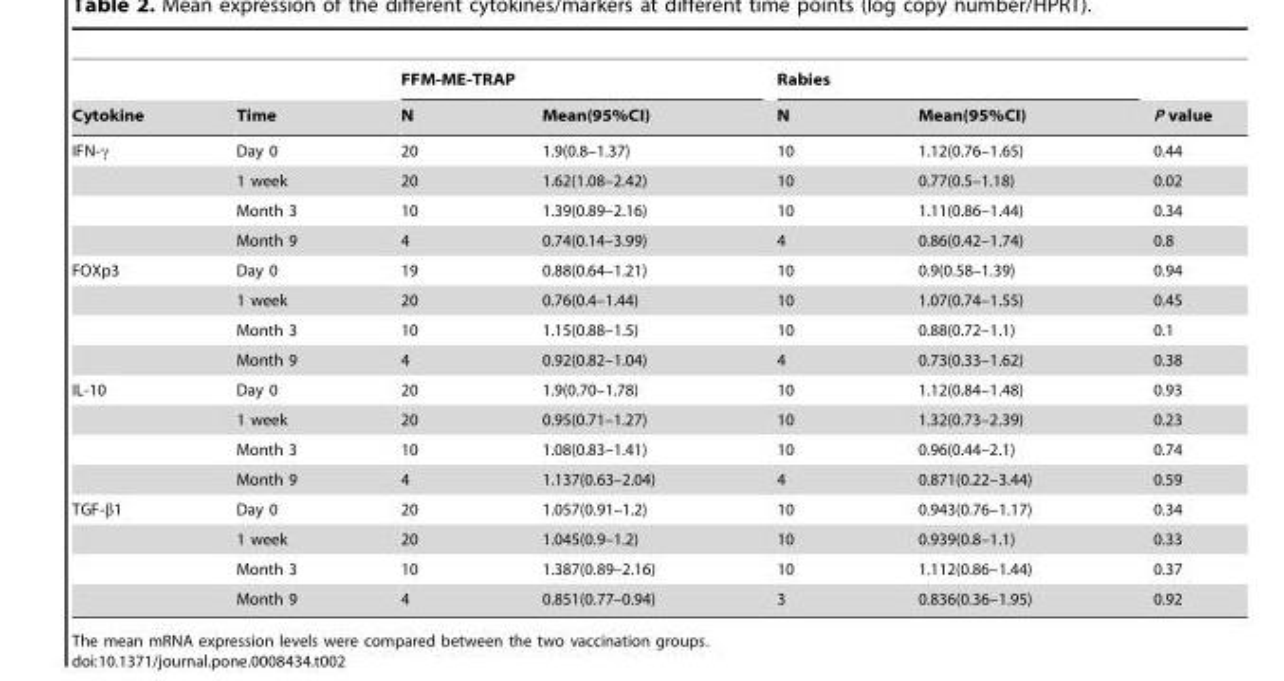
<table><thead><tr><td rowspan="2">Cytokine</td><td rowspan="2">Time</td><td colspan="2">FFM-ME-TRAP</td><td colspan="2">Rabies</td><td rowspan="2">P value</td></tr><tr><td>N</td><td>Mean(95%CI)</td><td>N</td><td>Mean(95%CI)</td></tr></thead><tbody><tr><td rowspan="4">IFN-γ</td><td>Day 0</td><td>20</td><td>1.9(0.8–1.37)</td><td>10</td><td>1.12(0.76–1.65)</td><td>0.44</td></tr><tr><td>1 week</td><td>20</td><td>1.62(1.08–2.42)</td><td>10</td><td>0.77(0.5–1.18)</td><td>0.02</td></tr><tr><td>Month 3</td><td>10</td><td>1.39(0.89–2.16)</td><td>10</td><td>1.11(0.86–1.44)</td><td>0.34</td></tr><tr><td>Month 9</td><td>4</td><td>0.74(0.14–3.99)</td><td>4</td><td>0.86(0.42–1.74)</td><td>0.8</td></tr><tr><td rowspan="4">FOXp3</td><td>Day 0</td><td>19</td><td>0.88(0.64–1.21)</td><td>10</td><td>0.9(0.58–1.39)</td><td>0.94</td></tr><tr><td>1 week</td><td>20</td><td>0.76(0.4–1.44)</td><td>10</td><td>1.07(0.74–1.55)</td><td>0.45</td></tr><tr><td>Month 3</td><td>10</td><td>1.15(0.88–1.5)</td><td>10</td><td>0.88(0.72–1.1)</td><td>0.1</td></tr><tr><td>Month 9</td><td>4</td><td>0.92(0.82–1.04)</td><td>4</td><td>0.73(0.33–1.62)</td><td>0.38</td></tr><tr><td rowspan="4">IL-10</td><td>Day 0</td><td>20</td><td>1.9(0.70–1.78)</td><td>10</td><td>1.12(0.84–1.48)</td><td>0.93</td></tr><tr><td>1 week</td><td>20</td><td>0.95(0.71–1.27)</td><td>10</td><td>1.32(0.73–2.39)</td><td>0.23</td></tr><tr><td>Month 3</td><td>10</td><td>1.08(0.83–1.41)</td><td>10</td><td>0.96(0.44–2.1)</td><td>0.74</td></tr><tr><td>Month 9</td><td>4</td><td>1.137(0.63–2.04)</td><td>4</td><td>0.871(0.22–3.44)</td><td>0.59</td></tr><tr><td rowspan="4">TGF-β1</td><td>Day 0</td><td>20</td><td>1.057(0.91–1.2)</td><td>10</td><td>0.943(0.76–1.17)</td><td>0.34</td></tr><tr><td>1 week</td><td>20</td><td>1.045(0.9–1.2)</td><td>10</td><td>0.939(0.8–1.1)</td><td>0.33</td></tr><tr><td>Month 3</td><td>10</td><td>1.387(0.89–2.16)</td><td>10</td><td>1.112(0.86–1.44)</td><td>0.37</td></tr><tr><td>Month 9</td><td>4</td><td>0.851(0.77–0.94)</td><td>3</td><td>0.836(0.36–1.95)</td><td>0.92</td></tr></tbody></table>